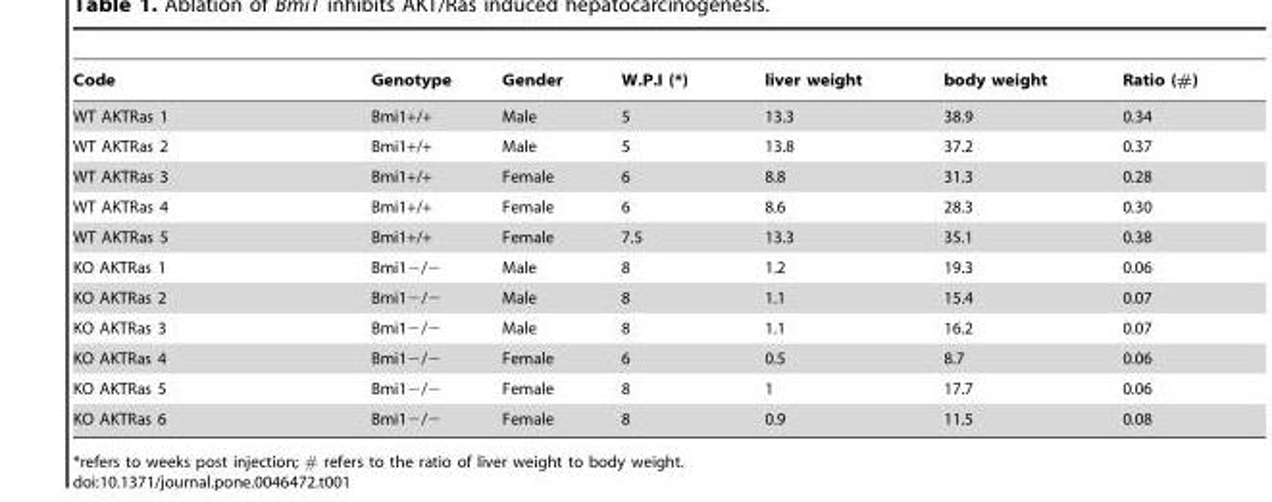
<table><thead><tr><td>Code</td><td>Genotype</td><td>Gender</td><td>W.P.I (*)</td><td>liver weight</td><td>body weight</td><td>Ratio (#)</td></tr></thead><tbody><tr><td>WT AKTRas 1</td><td>Bmi1+/+</td><td>Male</td><td>5</td><td>13.3</td><td>38.9</td><td>0.34</td></tr><tr><td>WT AKTRas 2</td><td>Bmi1+/+</td><td>Male</td><td>5</td><td>13.8</td><td>37.2</td><td>0.37</td></tr><tr><td>WT AKTRas 3</td><td>Bmi1+/+</td><td>Female</td><td>6</td><td>8.8</td><td>31.3</td><td>0.28</td></tr><tr><td>WT AKTRas 4</td><td>Bmi1+/+</td><td>Female</td><td>6</td><td>8.6</td><td>28.3</td><td>0.30</td></tr><tr><td>WT AKTRas 5</td><td>Bmi1+/+</td><td>Female</td><td>7.5</td><td>13.3</td><td>35.1</td><td>0.38</td></tr><tr><td>KO AKTRas 1</td><td>Bmi1−/−</td><td>Male</td><td>8</td><td>1.2</td><td>19.3</td><td>0.06</td></tr><tr><td>KO AKTRas 2</td><td>Bmi1−/−</td><td>Male</td><td>8</td><td>1.1</td><td>15.4</td><td>0.07</td></tr><tr><td>KO AKTRas 3</td><td>Bmi1−/−</td><td>Male</td><td>8</td><td>1.1</td><td>16.2</td><td>0.07</td></tr><tr><td>KO AKTRas 4</td><td>Bmi1−/−</td><td>Female</td><td>6</td><td>0.5</td><td>8.7</td><td>0.06</td></tr><tr><td>KO AKTRas 5</td><td>Bmi1−/−</td><td>Female</td><td>8</td><td>1</td><td>17.7</td><td>0.06</td></tr><tr><td>KO AKTRas 6</td><td>Bmi1−/−</td><td>Female</td><td>8</td><td>0.9</td><td>11.5</td><td>0.08</td></tr></tbody></table>